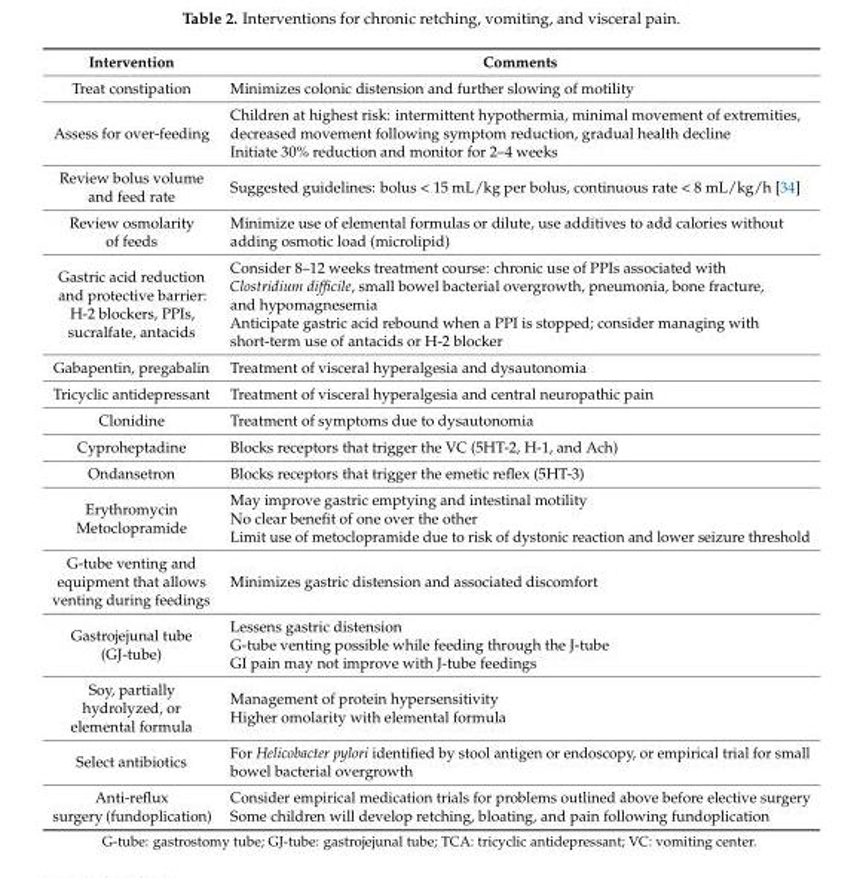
<table><thead><tr><td>Intervention</td><td>Comments</td></tr></thead><tbody><tr><td>Treat constipation</td><td>Minimizes colonic distension and further slowing of motility</td></tr><tr><td>Assess for over-feeding</td><td>Children at highest risk: intermittent hypothermia, minimal movement of extremities, decreased movement following symptom reduction, gradual health decline Initiate 30% reduction and monitor for 2–4 weeks</td></tr><tr><td>Review bolus volume and feed rate</td><td>Suggested guidelines: bolus &lt; 15 mL/kg per bolus, continuous rate &lt; 8 mL/kg/h [34]</td></tr><tr><td>Review osmolarity of feeds</td><td>Minimize use of elemental formulas or dilute, use additives to add calories without adding osmotic load (microlipid)</td></tr><tr><td>Gastric acid reduction and protective barrier: H-2 blockers, PPIs, sucralfate, antacids</td><td>Consider 8–12 weeks treatment course: chronic use of PPIs associated with Clostridium difficile, small bowel bacterial overgrowth, pneumonia, bone fracture, and hypomagnesemia Anticipate gastric acid rebound when a PPI is stopped; consider managing with short-term use of antacids or H-2 blocker</td></tr><tr><td>Gabapentin, pregabalin</td><td>Treatment of visceral hyperalgesia and dysautonomia</td></tr><tr><td>Tricyclic antidepressant</td><td>Treatment of visceral hyperalgesia and central neuropathic pain</td></tr><tr><td>Clonidine</td><td>Treatment of symptoms due to dysautonomia</td></tr><tr><td>Cyproheptadine</td><td>Blocks receptors that trigger the VC (5HT-2, H-1, and Ach)</td></tr><tr><td>Ondansetron</td><td>Blocks receptors that trigger the emetic reflex (5HT-3)</td></tr><tr><td>Erythromycin Metoclopramide</td><td>May improve gastric emptying and intestinal motility No clear benefit of one over the other Limit use of metoclopramide due to risk of dystonic reaction and lower seizure threshold</td></tr><tr><td>G-tube venting and equipment that allows venting during feedings</td><td>Minimizes gastric distension and associated discomfort</td></tr><tr><td>Gastrojejunal tube (GJ-tube)</td><td>Lessens gastric distension G-tube venting possible while feeding through the J-tube GI pain may not improve with J-tube feedings</td></tr><tr><td>Soy, partially hydrolyzed, or elemental formula</td><td>Management of protein hypersensitivity Higher omolarity with elemental formula</td></tr><tr><td>Select antibiotics</td><td>For Helicobacter pylori identified by stool antigen or endoscopy, or empirical trial for small bowel bacterial overgrowth</td></tr><tr><td>Anti-reflux surgery (fundoplication)</td><td>Consider empirical medication trials for problems outlined above before elective surgery Some children will develop retching, bloating, and pain following fundoplication</td></tr></tbody></table>